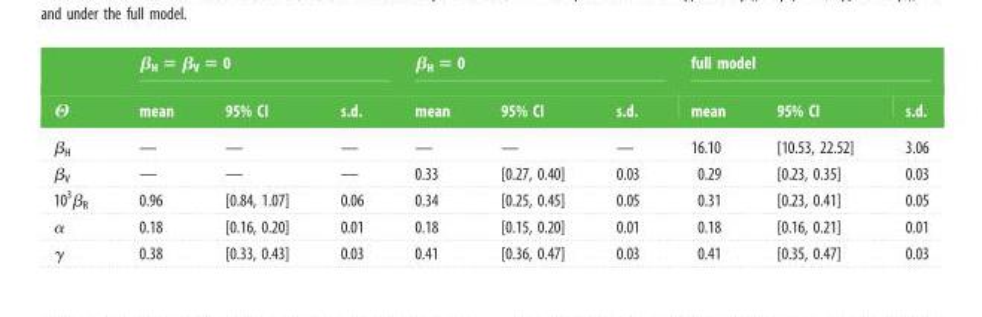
<table><thead><tr><td rowspan="2">Θ</td><td colspan="3">β<sub>H</sub> = β<sub>V</sub> = 0</td><td colspan="3">β<sub>H</sub> = 0</td><td colspan="3">full model</td></tr><tr><td>mean</td><td>95% CI</td><td>s.d.</td><td>mean</td><td>95% CI</td><td>s.d.</td><td>mean</td><td>95% CI</td><td>s.d.</td></tr></thead><tbody><tr><td>β<sub>H</sub></td><td>—</td><td>—</td><td>—</td><td>—</td><td>—</td><td>—</td><td>16.10</td><td>[10.53, 22.52]</td><td>3.06</td></tr><tr><td>β<sub>V</sub></td><td>—</td><td>—</td><td>—</td><td>0.33</td><td>[0.27, 0.40]</td><td>0.03</td><td>0.29</td><td>[0.23, 0.35]</td><td>0.03</td></tr><tr><td>10<sup>3</sup>β<sub>R</sub></td><td>0.96</td><td>[0.84, 1.07]</td><td>0.06</td><td>0.34</td><td>[0.25, 0.45]</td><td>0.05</td><td>0.31</td><td>[0.23, 0.41]</td><td>0.05</td></tr><tr><td>α</td><td>0.18</td><td>[0.16, 0.20]</td><td>0.01</td><td>0.18</td><td>[0.15, 0.20]</td><td>0.01</td><td>0.18</td><td>[0.16, 0.21]</td><td>0.01</td></tr><tr><td>γ</td><td>0.38</td><td>[0.33, 0.43]</td><td>0.03</td><td>0.41</td><td>[0.36, 0.47]</td><td>0.03</td><td>0.41</td><td>[0.35, 0.47]</td><td>0.03</td></tr></tbody></table>